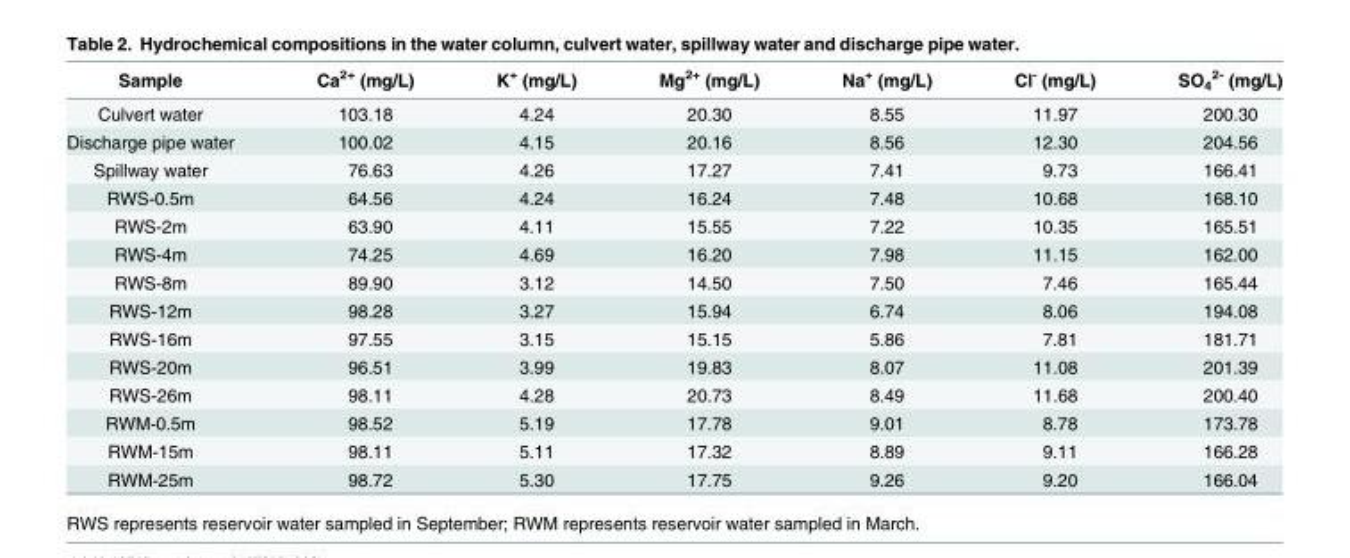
<table><thead><tr><td>Sample</td><td>Ca<sup>2+</sup> (mg/L)</td><td>K<sup>+</sup> (mg/L)</td><td>Mg<sup>2+</sup> (mg/L)</td><td>Na<sup>+</sup> (mg/L)</td><td>Cl<sup>-</sup> (mg/L)</td><td>SO<sub>4</sub> <sup>2-</sup> (mg/L)</td></tr></thead><tbody><tr><td>Culvert water</td><td>103.18</td><td>4.24</td><td>20.30</td><td>8.55</td><td>11.97</td><td>200.30</td></tr><tr><td>Discharge pipe water</td><td>100.02</td><td>4.15</td><td>20.16</td><td>8.56</td><td>12.30</td><td>204.56</td></tr><tr><td>Spillway water</td><td>76.63</td><td>4.26</td><td>17.27</td><td>7.41</td><td>9.73</td><td>166.41</td></tr><tr><td>RWS-0.5m</td><td>64.56</td><td>4.24</td><td>16.24</td><td>7.48</td><td>10.68</td><td>168.10</td></tr><tr><td>RWS-2m</td><td>63.90</td><td>4.11</td><td>15.55</td><td>7.22</td><td>10.35</td><td>165.51</td></tr><tr><td>RWS-4m</td><td>74.25</td><td>4.69</td><td>16.20</td><td>7.98</td><td>11.15</td><td>162.00</td></tr><tr><td>RWS-8m</td><td>89.90</td><td>3.12</td><td>14.50</td><td>7.50</td><td>7.46</td><td>165.44</td></tr><tr><td>RWS-12m</td><td>98.28</td><td>3.27</td><td>15.94</td><td>6.74</td><td>8.06</td><td>194.08</td></tr><tr><td>RWS-16m</td><td>97.55</td><td>3.15</td><td>15.15</td><td>5.86</td><td>7.81</td><td>181.71</td></tr><tr><td>RWS-20m</td><td>96.51</td><td>3.99</td><td>19.83</td><td>8.07</td><td>11.08</td><td>201.39</td></tr><tr><td>RWS-26m</td><td>98.11</td><td>4.28</td><td>20.73</td><td>8.49</td><td>11.68</td><td>200.40</td></tr><tr><td>RWM-0.5m</td><td>98.52</td><td>5.19</td><td>17.78</td><td>9.01</td><td>8.78</td><td>173.78</td></tr><tr><td>RWM-15m</td><td>98.11</td><td>5.11</td><td>17.32</td><td>8.89</td><td>9.11</td><td>166.28</td></tr><tr><td>RWM-25m</td><td>98.72</td><td>5.30</td><td>17.75</td><td>9.26</td><td>9.20</td><td>166.04</td></tr></tbody></table>